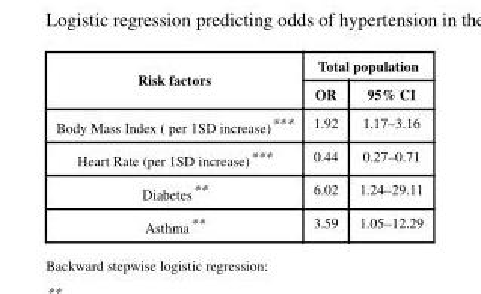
<table><thead><tr><td rowspan="2">Risk factors</td><td colspan="2">Total population</td></tr><tr><td>OR</td><td>95% CI</td></tr></thead><tbody><tr><td>Body Mass Index ( per 1SD increase)***</td><td>1.92</td><td>1.17–3.16</td></tr><tr><td>Heart Rate (per 1SD increase)***</td><td>0.44</td><td>0.27–0.71</td></tr><tr><td>Diabetes**</td><td>6.02</td><td>1.24–29.11</td></tr><tr><td>Asthma**</td><td>3.59</td><td>1.05–12.29</td></tr></tbody></table>